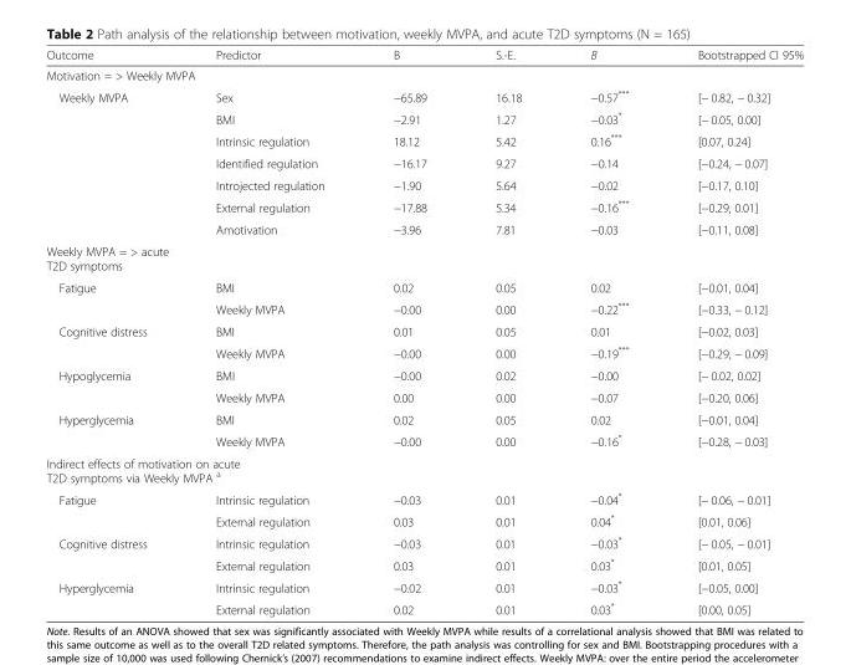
<table><thead><tr><td>Outcome</td><td>Predictor</td><td>B</td><td>S.-E.</td><td>Β</td><td>Bootstrapped CI 95%</td></tr></thead><tbody><tr><td colspan="6">Motivation = &gt; Weekly MVPA</td></tr><tr><td rowspan="7">Weekly MVPA</td><td>Sex</td><td>−65.89</td><td>16.18</td><td>−0.57***</td><td>[− 0.82, − 0.32]</td></tr><tr><td>BMI</td><td>−2.91</td><td>1.27</td><td>−0.03*</td><td>[− 0.05, 0.00]</td></tr><tr><td>Intrinsic regulation</td><td>18.12</td><td>5.42</td><td>0.16***</td><td>[0.07, 0.24]</td></tr><tr><td>Identified regulation</td><td>−16.17</td><td>9.27</td><td>−0.14</td><td>[−0.24, − 0.07]</td></tr><tr><td>Introjected regulation</td><td>−1.90</td><td>5.64</td><td>−0.02</td><td>[−0.17, 0.10]</td></tr><tr><td>External regulation</td><td>−17.88</td><td>5.34</td><td>−0.16***</td><td>[−0.29, 0.01]</td></tr><tr><td>Amotivation</td><td>−3.96</td><td>7.81</td><td>−0.03</td><td>[−0.11, 0.08]</td></tr><tr><td colspan="6">Weekly MVPA = &gt; acute T2D symptoms</td></tr><tr><td rowspan="2">Fatigue</td><td>BMI</td><td>0.02</td><td>0.05</td><td>0.02</td><td>[−0.01, 0.04]</td></tr><tr><td>Weekly MVPA</td><td>−0.00</td><td>0.00</td><td>−0.22***</td><td>[−0.33, − 0.12]</td></tr><tr><td rowspan="2">Cognitive distress</td><td>BMI</td><td>0.01</td><td>0.05</td><td>0.01</td><td>[−0.02, 0.03]</td></tr><tr><td>Weekly MVPA</td><td>−0.00</td><td>0.00</td><td>−0.19***</td><td>[−0.29, − 0.09]</td></tr><tr><td rowspan="2">Hypoglycemia</td><td>BMI</td><td>−0.00</td><td>0.02</td><td>−0.00</td><td>[− 0.02, 0.02]</td></tr><tr><td>Weekly MVPA</td><td>0.00</td><td>0.00</td><td>−0.07</td><td>[−0.20, 0.06]</td></tr><tr><td rowspan="2">Hyperglycemia</td><td>BMI</td><td>0.02</td><td>0.05</td><td>0.02</td><td>[−0.01, 0.04]</td></tr><tr><td>Weekly MVPA</td><td>−0.00</td><td>0.00</td><td>−0.16*</td><td>[−0.28, − 0.03]</td></tr><tr><td colspan="6">Indirect effects of motivation on acute T2D symptoms via Weekly MVPA <sup>a</sup></td></tr><tr><td rowspan="2">Fatigue</td><td>Intrinsic regulation</td><td>−0.03</td><td>0.01</td><td>−0.04*</td><td>[− 0.06, − 0.01]</td></tr><tr><td>External regulation</td><td>0.03</td><td>0.01</td><td>0.04*</td><td>[0.01, 0.06]</td></tr><tr><td rowspan="2">Cognitive distress</td><td>Intrinsic regulation</td><td>−0.03</td><td>0.01</td><td>−0.03*</td><td>[− 0.05, − 0.01]</td></tr><tr><td>External regulation</td><td>0.03</td><td>0.01</td><td>0.03*</td><td>[0.01, 0.05]</td></tr><tr><td rowspan="2">Hyperglycemia</td><td>Intrinsic regulation</td><td>−0.02</td><td>0.01</td><td>−0.03*</td><td>[−0.05, 0.00]</td></tr><tr><td>External regulation</td><td>0.02</td><td>0.01</td><td>0.03*</td><td>[0.00, 0.05]</td></tr></tbody></table>